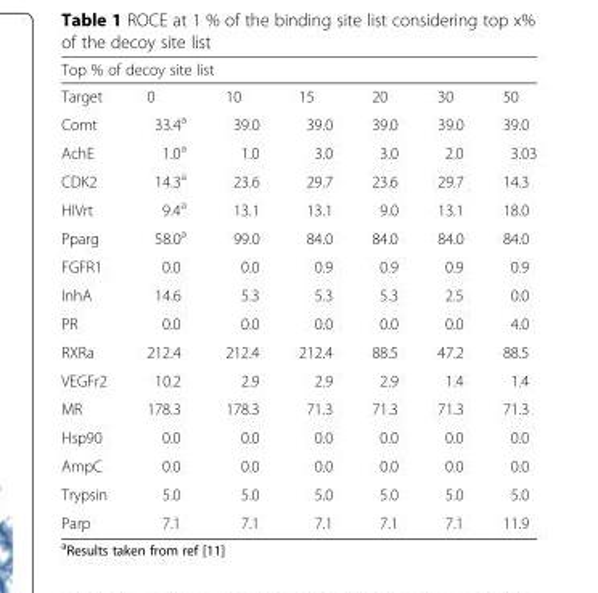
<table><thead><tr><td colspan="7">Top % of decoy site list</td></tr><tr><td>Target</td><td>0</td><td>10</td><td>15</td><td>20</td><td>30</td><td>50</td></tr></thead><tbody><tr><td>Comt</td><td>33.4<sup>a</sup></td><td>39.0</td><td>39.0</td><td>39.0</td><td>39.0</td><td>39.0</td></tr><tr><td>AchE</td><td>1.0<sup>a</sup></td><td>1.0</td><td>3.0</td><td>3.0</td><td>2.0</td><td>3.03</td></tr><tr><td>CDK2</td><td>14.3<sup>a</sup></td><td>23.6</td><td>29.7</td><td>23.6</td><td>29.7</td><td>14.3</td></tr><tr><td>HIVrt</td><td>9.4<sup>a</sup></td><td>13.1</td><td>13.1</td><td>9.0</td><td>13.1</td><td>18.0</td></tr><tr><td>Pparg</td><td>58.0<sup>a</sup></td><td>99.0</td><td>84.0</td><td>84.0</td><td>84.0</td><td>84.0</td></tr><tr><td>FGFR1</td><td>0.0</td><td>0.0</td><td>0.9</td><td>0.9</td><td>0.9</td><td>0.9</td></tr><tr><td>InhA</td><td>14.6</td><td>5.3</td><td>5.3</td><td>5.3</td><td>2.5</td><td>0.0</td></tr><tr><td>PR</td><td>0.0</td><td>0.0</td><td>0.0</td><td>0.0</td><td>0.0</td><td>4.0</td></tr><tr><td>RXRa</td><td>212.4</td><td>212.4</td><td>212.4</td><td>88.5</td><td>47.2</td><td>88.5</td></tr><tr><td>VEGFr2</td><td>10.2</td><td>2.9</td><td>2.9</td><td>2.9</td><td>1.4</td><td>1.4</td></tr><tr><td>MR</td><td>178.3</td><td>178.3</td><td>71.3</td><td>71.3</td><td>71.3</td><td>71.3</td></tr><tr><td>Hsp90</td><td>0.0</td><td>0.0</td><td>0.0</td><td>0.0</td><td>0.0</td><td>0.0</td></tr><tr><td>AmpC</td><td>0.0</td><td>0.0</td><td>0.0</td><td>0.0</td><td>0.0</td><td>0.0</td></tr><tr><td>Trypsin</td><td>5.0</td><td>5.0</td><td>5.0</td><td>5.0</td><td>5.0</td><td>5.0</td></tr><tr><td>Parp</td><td>7.1</td><td>7.1</td><td>7.1</td><td>7.1</td><td>7.1</td><td>11.9</td></tr></tbody></table>